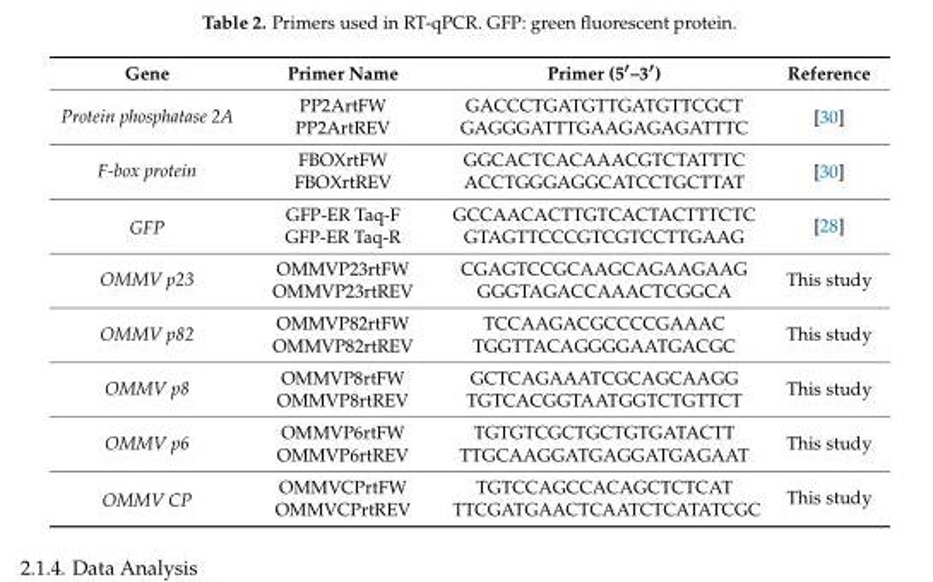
<table><thead><tr><td>Gene</td><td>Primer Name</td><td>Primer (5′–3′)</td><td>Reference</td></tr></thead><tbody><tr><td rowspan="2">Protein phosphatase 2A</td><td>PP2ArtFW</td><td>GACCCTGATGTTGATGTTCGCT</td><td rowspan="2">[30]</td></tr><tr><td>PP2ArtREV</td><td>GAGGGATTTGAAGAGAGATTTC</td></tr><tr><td rowspan="2">F-box protein</td><td>FBOXrtFW</td><td>GGCACTCACAAACGTCTATTTC</td><td rowspan="2">[30]</td></tr><tr><td>FBOXrtREV</td><td>ACCTGGGAGGCATCCTGCTTAT</td></tr><tr><td rowspan="2">GFP</td><td>GFP-ER Taq-F</td><td>GCCAACACTTGTCACTACTTTCTC</td><td rowspan="2">[28]</td></tr><tr><td>GFP-ER Taq-R</td><td>GTAGTTCCCGTCGTCCTTGAAG</td></tr><tr><td rowspan="2">OMMV p23</td><td>OMMVP23rtFW</td><td>CGAGTCCGCAAGCAGAAGAAG</td><td rowspan="2">This study</td></tr><tr><td>OMMVP23rtREV</td><td>GGGTAGACCAAACTCGGCA</td></tr><tr><td rowspan="2">OMMV p82</td><td>OMMVP82rtFW</td><td>TCCAAGACGCCCCGAAAC</td><td rowspan="2">This study</td></tr><tr><td>OMMVP82rtREV</td><td>TGGTTACAGGGGAATGACGC</td></tr><tr><td rowspan="2">OMMV p8</td><td>OMMVP8rtFW</td><td>GCTCAGAAATCGCAGCAAGG</td><td rowspan="2">This study</td></tr><tr><td>OMMVP8rtREV</td><td>TGTCACGGTAATGGTCTGTTCT</td></tr><tr><td rowspan="2">OMMV p6</td><td>OMMVP6rtFW</td><td>TGTGTCGCTGCTGTGATACTT</td><td rowspan="2">This study</td></tr><tr><td>OMMVP6rtREV</td><td>TTGCAAGGATGAGGATGAGAAT</td></tr><tr><td rowspan="2">OMMV CP</td><td>OMMVCPrtFW</td><td>TGTCCAGCCACAGCTCTCAT</td><td rowspan="2">This study</td></tr><tr><td>OMMVCPrtREV</td><td>TTCGATGAACTCAATCTCATATCGC</td></tr></tbody></table>